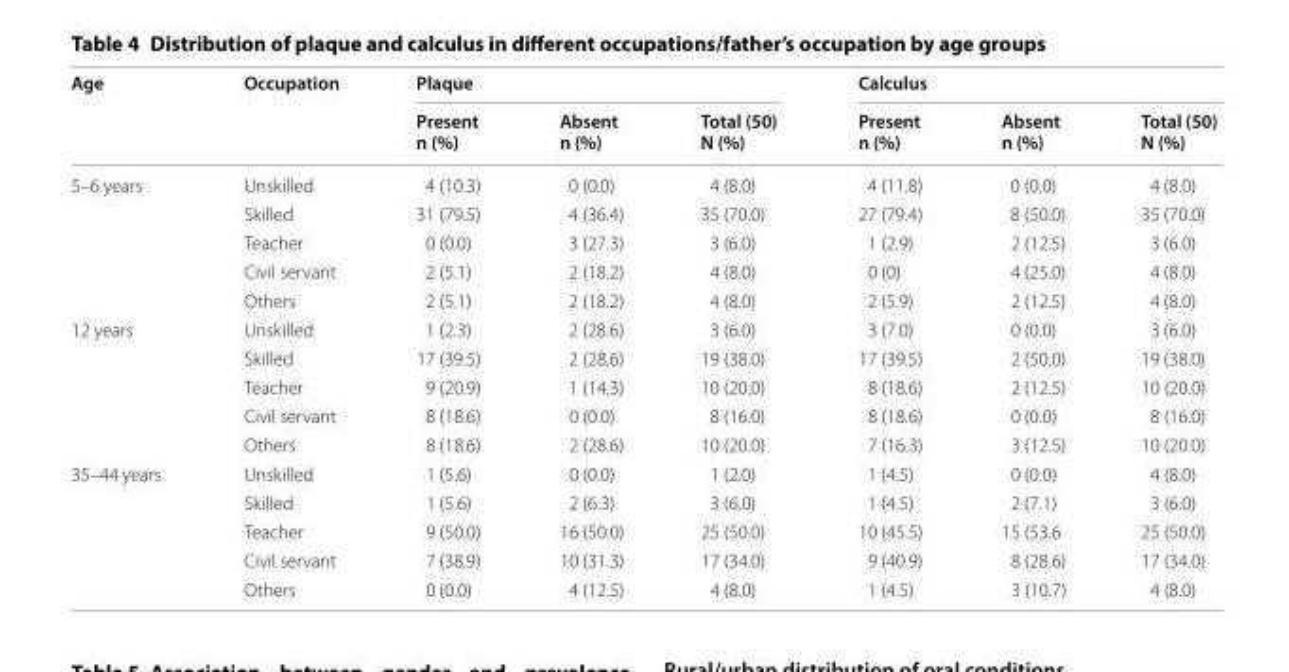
<table><thead><tr><td rowspan="2">Age</td><td rowspan="2">Occupation</td><td colspan="3">Plaque</td><td colspan="3">Calculus</td></tr><tr><td>Present n (%)</td><td>Absent n (%)</td><td>Total (50) N (%)</td><td>Present n (%)</td><td>Absent n (%)</td><td>Total (50) N (%)</td></tr></thead><tbody><tr><td rowspan="5">5–6 years</td><td>Unskilled</td><td>4 (10.3)</td><td>0 (0.0)</td><td>4 (8.0)</td><td>4 (11.8)</td><td>0 (0.0)</td><td>4 (8.0)</td></tr><tr><td>Skilled</td><td>31 (79.5)</td><td>4 (36.4)</td><td>35 (70.0)</td><td>27 (79.4)</td><td>8 (50.0)</td><td>35 (70.0)</td></tr><tr><td>Teacher</td><td>0 (0.0)</td><td>3 (27.3)</td><td>3 (6.0)</td><td>1 (2.9)</td><td>2 (12.5)</td><td>3 (6.0)</td></tr><tr><td>Civil servant</td><td>2 (5.1)</td><td>2 (18.2)</td><td>4 (8.0)</td><td>0 (0)</td><td>4 (25.0)</td><td>4 (8.0)</td></tr><tr><td>Others</td><td>2 (5.1)</td><td>2 (18.2)</td><td>4 (8.0)</td><td>2 (5.9)</td><td>2 (12.5)</td><td>4 (8.0)</td></tr><tr><td rowspan="5">12 years</td><td>Unskilled</td><td>1 (2.3)</td><td>2 (28.6)</td><td>3 (6.0)</td><td>3 (7.0)</td><td>0 (0.0)</td><td>3 (6.0)</td></tr><tr><td>Skilled</td><td>17 (39.5)</td><td>2 (28.6)</td><td>19 (38.0)</td><td>17 (39.5)</td><td>2 (50.0)</td><td>19 (38.0)</td></tr><tr><td>Teacher</td><td>9 (20.9)</td><td>1 (14.3)</td><td>10 (20.0)</td><td>8 (18.6)</td><td>2 (12.5)</td><td>10 (20.0)</td></tr><tr><td>Civil servant</td><td>8 (18.6)</td><td>0 (0.0)</td><td>8 (16.0)</td><td>8 (18.6)</td><td>0 (0.0)</td><td>8 (16.0)</td></tr><tr><td>Others</td><td>8 (18.6)</td><td>2 (28.6)</td><td>10 (20.0)</td><td>7 (16.3)</td><td>3 (12.5)</td><td>10 (20.0)</td></tr><tr><td rowspan="5">35–44 years</td><td>Unskilled</td><td>1 (5.6)</td><td>0 (0.0)</td><td>1 (2.0)</td><td>1 (4.5)</td><td>0 (0.0)</td><td>4 (8.0)</td></tr><tr><td>Skilled</td><td>1 (5.6)</td><td>2 (6.3)</td><td>3 (6.0)</td><td>1 (4.5)</td><td>2 (7.1)</td><td>3 (6.0)</td></tr><tr><td>Teacher</td><td>9 (50.0)</td><td>16 (50.0)</td><td>25 (50.0)</td><td>10 (45.5)</td><td>15 (53.6</td><td>25 (50.0)</td></tr><tr><td>Civil servant</td><td>7 (38.9)</td><td>10 (31.3)</td><td>17 (34.0)</td><td>9 (40.9)</td><td>8 (28.6)</td><td>17 (34.0)</td></tr><tr><td>Others</td><td>0 (0.0)</td><td>4 (12.5)</td><td>4 (8.0)</td><td>1 (4.5)</td><td>3 (10.7)</td><td>4 (8.0)</td></tr></tbody></table>